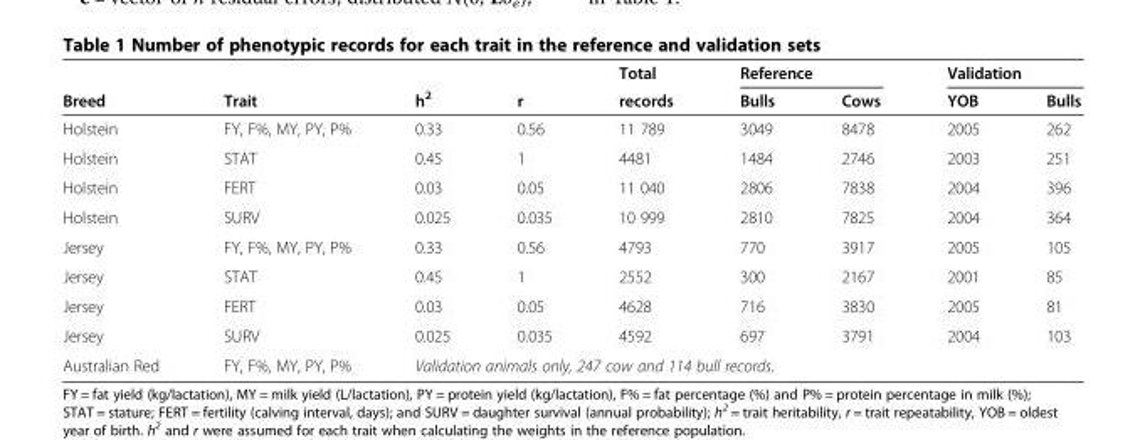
<table><thead><tr><td rowspan="2">Breed</td><td rowspan="2">Trait</td><td rowspan="2">h<sup>2</sup></td><td rowspan="2">r</td><td rowspan="2">Total records</td><td colspan="2">Reference</td><td colspan="2">Validation</td></tr><tr><td>Bulls</td><td>Cows</td><td>YOB</td><td>Bulls</td></tr></thead><tbody><tr><td>Holstein</td><td>FY, F%, MY, PY, P%</td><td>0.33</td><td>0.56</td><td>11 789</td><td>3049</td><td>8478</td><td>2005</td><td>262</td></tr><tr><td>Holstein</td><td>STAT</td><td>0.45</td><td>1</td><td>4481</td><td>1484</td><td>2746</td><td>2003</td><td>251</td></tr><tr><td>Holstein</td><td>FERT</td><td>0.03</td><td>0.05</td><td>11 040</td><td>2806</td><td>7838</td><td>2004</td><td>396</td></tr><tr><td>Holstein</td><td>SURV</td><td>0.025</td><td>0.035</td><td>10 999</td><td>2810</td><td>7825</td><td>2004</td><td>364</td></tr><tr><td>Jersey</td><td>FY, F%, MY, PY, P%</td><td>0.33</td><td>0.56</td><td>4793</td><td>770</td><td>3917</td><td>2005</td><td>105</td></tr><tr><td>Jersey</td><td>STAT</td><td>0.45</td><td>1</td><td>2552</td><td>300</td><td>2167</td><td>2001</td><td>85</td></tr><tr><td>Jersey</td><td>FERT</td><td>0.03</td><td>0.05</td><td>4628</td><td>716</td><td>3830</td><td>2005</td><td>81</td></tr><tr><td>Jersey</td><td>SURV</td><td>0.025</td><td>0.035</td><td>4592</td><td>697</td><td>3791</td><td>2004</td><td>103</td></tr><tr><td>Australian Red</td><td>FY, F%, MY, PY, P%</td><td colspan="7">Validation animals only, 247 cow and 114 bull records.</td></tr></tbody></table>